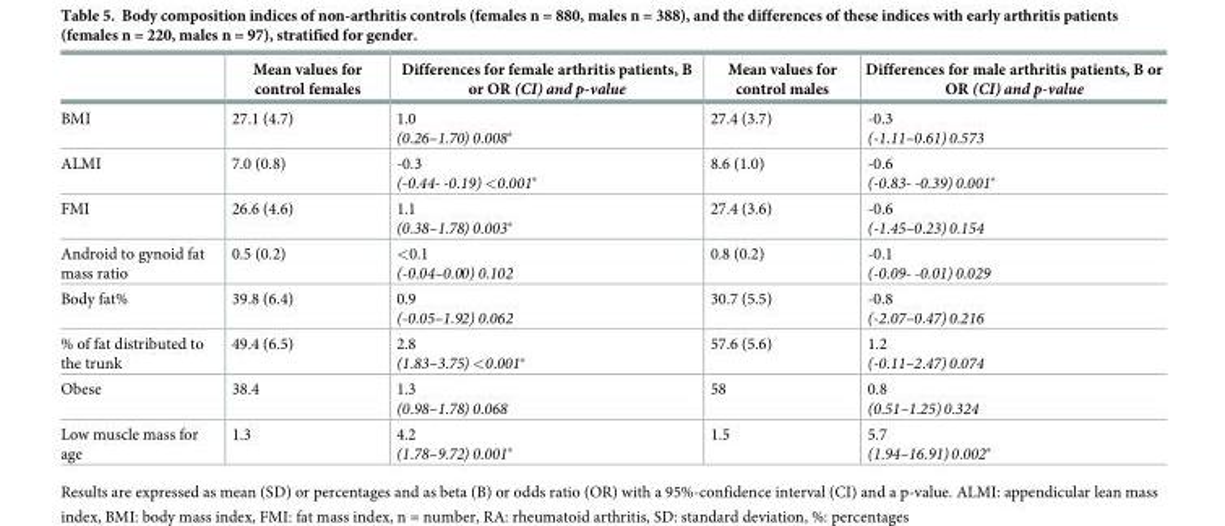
<table><thead><tr><td></td><td>Mean values for control females</td><td>Differences for female arthritis patients, B or OR (CI) and p-value</td><td>Mean values for control males</td><td>Differences for male arthritis patients, B or OR (CI) and p-value</td></tr></thead><tbody><tr><td>BMI</td><td>27.1 (4.7)</td><td>1.0 (0.26–1.70) 0.008*</td><td>27.4 (3.7)</td><td>-0.3 (-1.11–0.61)0.573</td></tr><tr><td>ALMI</td><td>7.0 (0.8)</td><td>-0.3 (-0.44- -0.19) &lt;0.001*</td><td>8.6 (1.0)</td><td>-0.6 (-0.83- -0.39) 0.001*</td></tr><tr><td>FMI</td><td>26.6 (4.6)</td><td>1.1 (0.38–1.78) 0.003*</td><td>27.4 (3.6)</td><td>-0.6 (-1.45–0.23)0.154</td></tr><tr><td>Android to gynoid fat mass ratio</td><td>0.5 (0.2)</td><td>&lt;0.1 (-0.04–0.00) 0.102</td><td>0.8 (0.2)</td><td>-0.1 (-0.09- -0.01) 0.029</td></tr><tr><td>Body fat%</td><td>39.8 (6.4)</td><td>0.9 (-0.05–1.92) 0.062</td><td>30.7 (5.5)</td><td>-0.8 (-2.07–0.47)0.216</td></tr><tr><td>% of fat distributed to the trunk</td><td>49.4 (6.5)</td><td>2.8 (1.83–3.75) &lt;0.001*</td><td>57.6 (5.6)</td><td>1.2 (-0.11–2.47)0.074</td></tr><tr><td>Obese</td><td>38.4</td><td>1.3 (0.98–1.78) 0.068</td><td>58</td><td>0.8 (0.51–1.25) 0.324</td></tr><tr><td>Low muscle mass for age</td><td>1.3</td><td>4.2 (1.78–9.72) 0.001*</td><td>1.5</td><td>5.7 (1.94–16.91)0.002*</td></tr></tbody></table>